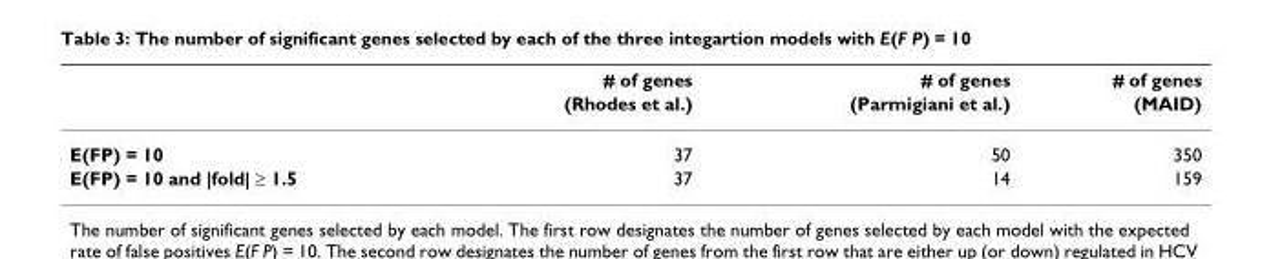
<table><thead><tr><td rowspan="2"></td><td rowspan="2"># of genes (Rhodes et al.)</td><td rowspan="2"># of genes (Parmigiani et al.)</td><td rowspan="2"># of genes (MAID)</td></tr><tr></tr></thead><tbody><tr><td>E(FP) = 10</td><td>37</td><td>50</td><td>350</td></tr><tr><td>E(FP) = 10 and |fold| ≥ 1.5</td><td>37</td><td>14</td><td>159</td></tr></tbody></table>